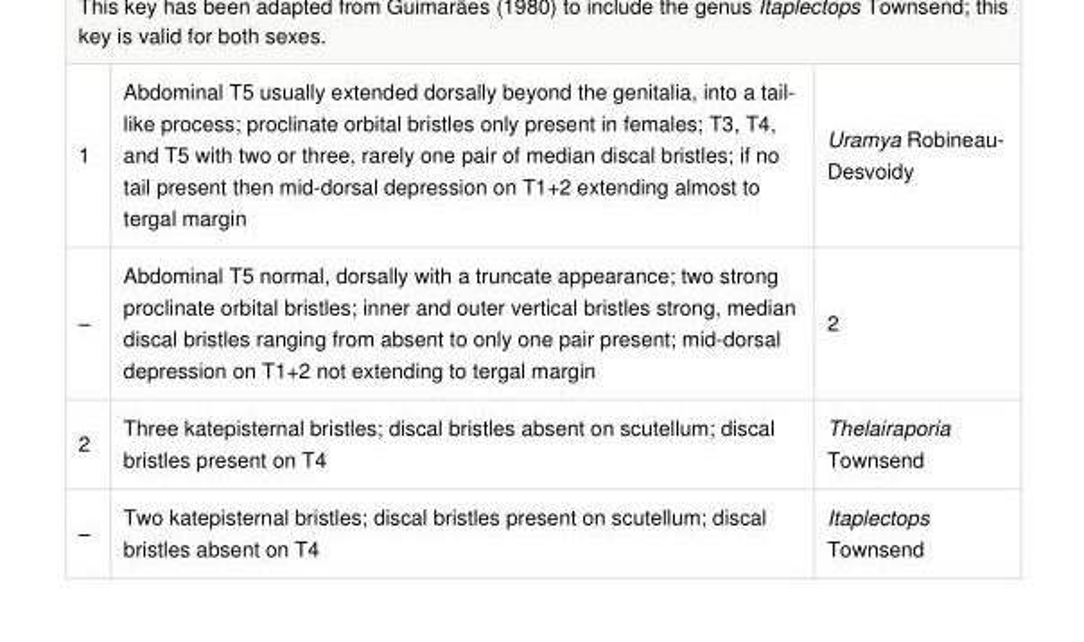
<table><tbody><tr><td>1</td><td>Abdominal T5 usually extended dorsally beyond the genitalia, into a tail- like process; proclinate orbital bristles only present in females; T3, T4, and T5 with two or three, rarely one pair of median discal bristles; if no tail present then mid-dorsal depression on T1+2 extending almost to tergal margin</td><td>Uramya Robineau- Desvoidy</td></tr><tr><td>–</td><td>Abdominal T5 normal, dorsally with a truncate appearance; two strong proclinate orbital bristles; inner and outer vertical bristles strong, median discal bristles ranging from absent to only one pair present; mid-dorsal depression on T1+2 not extending to tergal margin</td><td>2</td></tr><tr><td>2</td><td>Three katepisternal bristles; discal bristles absent on scutellum; discal bristles present on T4</td><td>Thelairaporia Townsend</td></tr><tr><td>–</td><td>Two katepisternal bristles; discal bristles present on scutellum; discal bristles absent on T4</td><td>Itaplectops Townsend</td></tr></tbody></table>